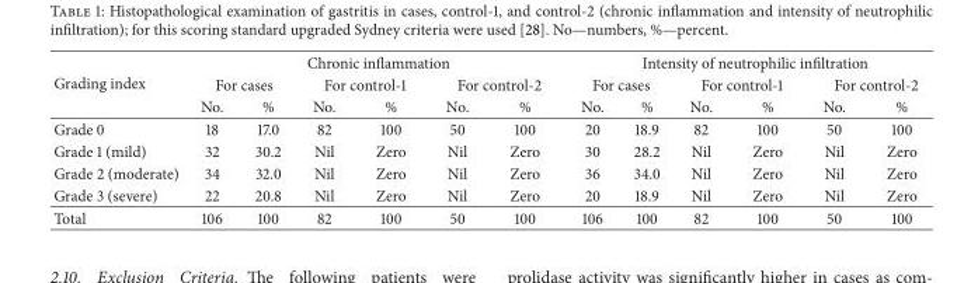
<table><thead><tr><td rowspan="3">Grading index</td><td colspan="6">Chronic inflammation</td><td colspan="6">Intensity of neutrophilic infiltration</td></tr><tr><td colspan="2">For cases</td><td colspan="2">For control-1</td><td colspan="2">For control-2</td><td colspan="2">For cases</td><td colspan="2">For control-1</td><td colspan="2">For control-2</td></tr><tr><td>No.</td><td>%</td><td>No.</td><td>%</td><td>No.</td><td>%</td><td>No.</td><td>%</td><td>No.</td><td>%</td><td>No.</td><td>%</td></tr></thead><tbody><tr><td>Grade 0</td><td>18</td><td>17.0</td><td>82</td><td>100</td><td>50</td><td>100</td><td>20</td><td>18.9</td><td>82</td><td>100</td><td>50</td><td>100</td></tr><tr><td>Grade 1 (mild)</td><td>32</td><td>30.2</td><td>Nil</td><td>Zero</td><td>Nil</td><td>Zero</td><td>30</td><td>28.2</td><td>Nil</td><td>Zero</td><td>Nil</td><td>Zero</td></tr><tr><td>Grade 2 (moderate)</td><td>34</td><td>32.0</td><td>Nil</td><td>Zero</td><td>Nil</td><td>Zero</td><td>36</td><td>34.0</td><td>Nil</td><td>Zero</td><td>Nil</td><td>Zero</td></tr><tr><td>Grade 3 (severe)</td><td>22</td><td>20.8</td><td>Nil</td><td>Zero</td><td>Nil</td><td>Zero</td><td>20</td><td>18.9</td><td>Nil</td><td>Zero</td><td>Nil</td><td>Zero</td></tr><tr><td>Total</td><td>106</td><td>100</td><td>82</td><td>100</td><td>50</td><td>100</td><td>106</td><td>100</td><td>82</td><td>100</td><td>50</td><td>100</td></tr></tbody></table>